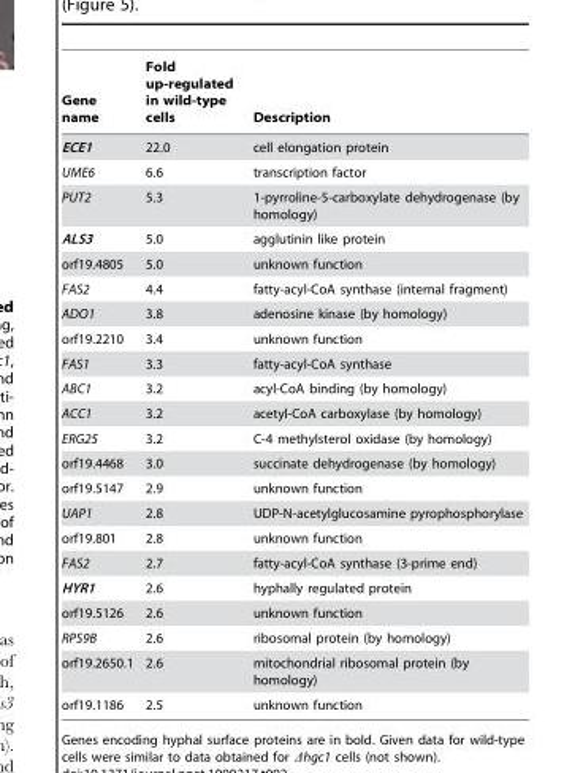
<table><thead><tr><td>Gene name</td><td>Fold up-regulated in wild-type cells</td><td>Description</td></tr></thead><tbody><tr><td>ECE1</td><td>22.0</td><td>cell elongation protein</td></tr><tr><td>UME6</td><td>6.6</td><td>transcription factor</td></tr><tr><td>PUT2</td><td>5.3</td><td>1-pyrroline-5-carboxylate dehydrogenase (by homology)</td></tr><tr><td>ALS3</td><td>5.0</td><td>agglutinin like protein</td></tr><tr><td>orf19.4805</td><td>5.0</td><td>unknown function</td></tr><tr><td>FAS2</td><td>4.4</td><td>fatty-acyl-CoA synthase (internal fragment)</td></tr><tr><td>ADO1</td><td>3.8</td><td>adenosine kinase (by homology)</td></tr><tr><td>orf19.2210</td><td>3.4</td><td>unknown function</td></tr><tr><td>FAS1</td><td>3.3</td><td>fatty-acyl-CoA synthase</td></tr><tr><td>ABC1</td><td>3.2</td><td>acyl-CoA binding (by homology)</td></tr><tr><td>ACC1</td><td>3.2</td><td>acetyl-CoA carboxylase (by homology)</td></tr><tr><td>ERG25</td><td>3.2</td><td>C-4 methylsterol oxidase (by homology)</td></tr><tr><td>orf19.4468</td><td>3.0</td><td>succinate dehydrogenase (by homology)</td></tr><tr><td>orf19.5147</td><td>2.9</td><td>unknown function</td></tr><tr><td>UAP1</td><td>2.8</td><td>UDP-N-acetylglucosamine pyrophosphorylase</td></tr><tr><td>orf19.801</td><td>2.8</td><td>unknown function</td></tr><tr><td>FAS2</td><td>2.7</td><td>fatty-acyl-CoA synthase (3-prime end)</td></tr><tr><td>HYR1</td><td>2.6</td><td>hyphally regulated protein</td></tr><tr><td>orf19.5126</td><td>2.6</td><td>unknown function</td></tr><tr><td>RPS9B</td><td>2.6</td><td>ribosomal protein (by homology)</td></tr><tr><td>orf19.2650.1</td><td>2.6</td><td>mitochondrial ribosomal protein (by homology)</td></tr><tr><td>orf19.1186</td><td>2.5</td><td>unknown function</td></tr></tbody></table>